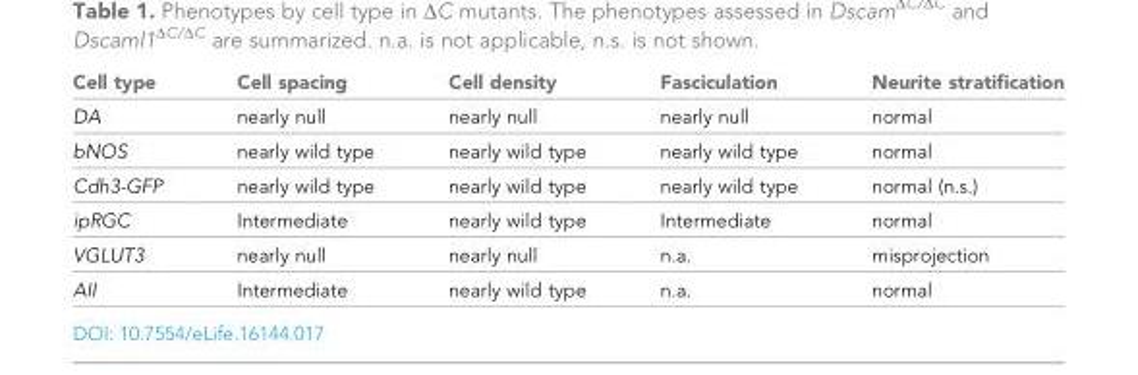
<table><thead><tr><td>Cell type</td><td>Cell spacing</td><td>Cell density</td><td>Fasciculation</td><td>Neurite stratification</td></tr></thead><tbody><tr><td>DA</td><td>nearly null</td><td>nearly null</td><td>nearly null</td><td>normal</td></tr><tr><td>bNOS</td><td>nearly wild type</td><td>nearly wild type</td><td>nearly wild type</td><td>normal</td></tr><tr><td>Cdh3-GFP</td><td>nearly wild type</td><td>nearly wild type</td><td>nearly wild type</td><td>normal (n.s.)</td></tr><tr><td>ipRGC</td><td>Intermediate</td><td>nearly wild type</td><td>Intermediate</td><td>normal</td></tr><tr><td>VGLUT3</td><td>nearly null</td><td>nearly null</td><td>n.a.</td><td>misprojection</td></tr><tr><td>AII</td><td>Intermediate</td><td>nearly wild type</td><td>n.a.</td><td>normal</td></tr></tbody></table>